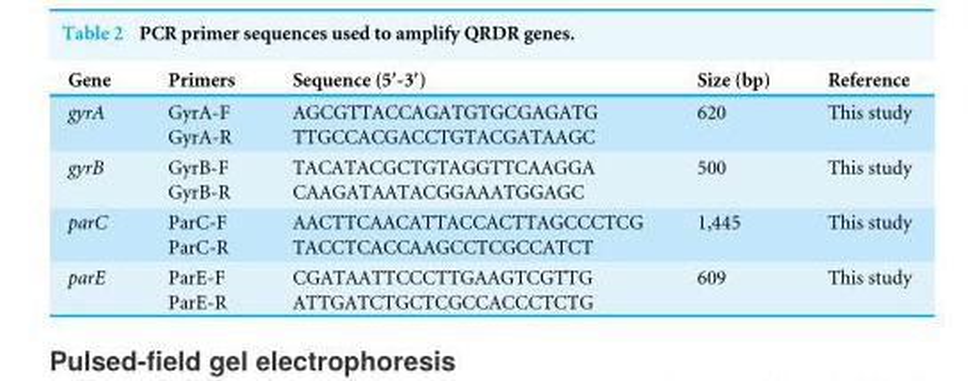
<table><thead><tr><td>Gene</td><td>Primers</td><td>Sequence (5′-3′)</td><td>Size (bp)</td><td>Reference</td></tr></thead><tbody><tr><td>gyrA</td><td>GyrA-F GyrA-R</td><td>AGCGTTACCAGATGTGCGAGATG TTGCCACGACCTGTACGATAAGC</td><td>620</td><td>This study</td></tr><tr><td>gyrB</td><td>GyrB-F GyrB-R</td><td>TACATACGCTGTAGGTTCAAGGA CAAGATAATACGGAAATGGAGC</td><td>500</td><td>This study</td></tr><tr><td>parC</td><td>ParC-F ParC-R</td><td>AACTTCAACATTACCACTTAGCCCTCG TACCTCACCAAGCCTCGCCATCT</td><td>1,445</td><td>This study</td></tr><tr><td>parE</td><td>ParE-F ParE-R</td><td>CGATAATTCCCTTGAAGTCGTTG ATTGATCTGCTCGCCACCCTCTG</td><td>609</td><td>This study</td></tr></tbody></table>